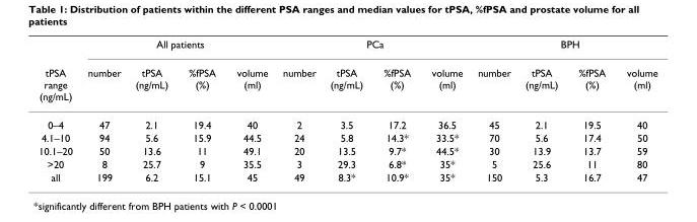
<table><thead><tr><td rowspan="2">tPSA range (ng/mL)</td><td colspan="4">All patients</td><td colspan="4">PCa</td><td colspan="4">BPH</td></tr><tr><td>number</td><td>tPSA (ng/mL)</td><td>%fPSA (%)</td><td>volume (ml)</td><td>number</td><td>tPSA (ng/mL)</td><td>%fPSA (%)</td><td>volume (ml)</td><td>number</td><td>tPSA (ng/mL)</td><td>%fPSA (%)</td><td>volume (ml)</td></tr></thead><tbody><tr><td>0–4</td><td>47</td><td>2.1</td><td>19.4</td><td>40</td><td>2</td><td>3.5</td><td>17.2</td><td>36.5</td><td>45</td><td>2.1</td><td>19.5</td><td>40</td></tr><tr><td>4.1–10</td><td>94</td><td>5.6</td><td>15.9</td><td>44.5</td><td>24</td><td>5.8</td><td>14.3*</td><td>33.5*</td><td>70</td><td>5.6</td><td>17.4</td><td>50</td></tr><tr><td>10.1–20</td><td>50</td><td>13.6</td><td>11</td><td>49.1</td><td>20</td><td>13.5</td><td>9.7*</td><td>44.5*</td><td>30</td><td>13.9</td><td>13.7</td><td>59</td></tr><tr><td>&gt;20</td><td>8</td><td>25.7</td><td>9</td><td>35.5</td><td>3</td><td>29.3</td><td>6.8*</td><td>35*</td><td>5</td><td>25.6</td><td>11</td><td>80</td></tr><tr><td>all</td><td>199</td><td>6.2</td><td>15.1</td><td>45</td><td>49</td><td>8.3*</td><td>10.9*</td><td>35*</td><td>150</td><td>5.3</td><td>16.7</td><td>47</td></tr></tbody></table>